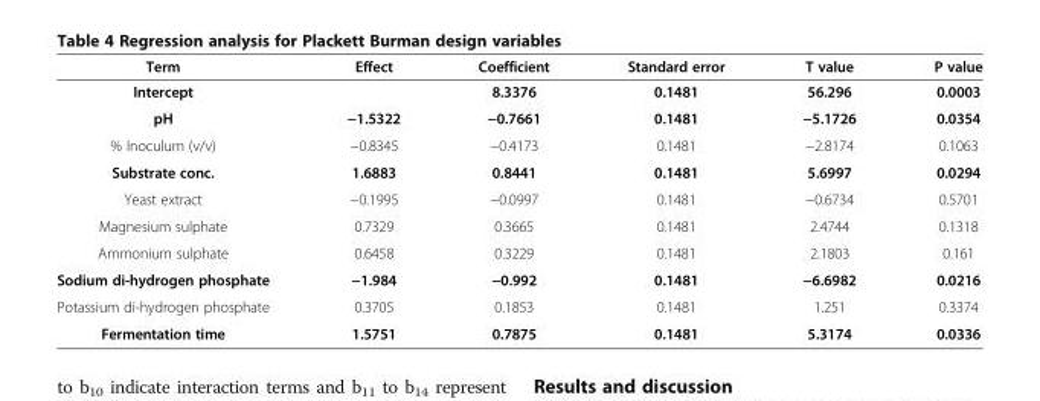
<table><thead><tr><td>Term</td><td>Effect</td><td>Coefficient</td><td>Standard error</td><td>T value</td><td>P value</td></tr></thead><tbody><tr><td>Intercept</td><td></td><td>8.3376</td><td>0.1481</td><td>56.296</td><td>0.0003</td></tr><tr><td>pH</td><td>−1.5322</td><td>−0.7661</td><td>0.1481</td><td>−5.1726</td><td>0.0354</td></tr><tr><td>% Inoculum (v/v)</td><td>−0.8345</td><td>−0.4173</td><td>0.1481</td><td>−2.8174</td><td>0.1063</td></tr><tr><td>Substrate conc.</td><td>1.6883</td><td>0.8441</td><td>0.1481</td><td>5.6997</td><td>0.0294</td></tr><tr><td>Yeast extract</td><td>−0.1995</td><td>−0.0997</td><td>0.1481</td><td>−0.6734</td><td>0.5701</td></tr><tr><td>Magnesium sulphate</td><td>0.7329</td><td>0.3665</td><td>0.1481</td><td>2.4744</td><td>0.1318</td></tr><tr><td>Ammonium sulphate</td><td>0.6458</td><td>0.3229</td><td>0.1481</td><td>2.1803</td><td>0.161</td></tr><tr><td>Sodium di-hydrogen phosphate</td><td>−1.984</td><td>−0.992</td><td>0.1481</td><td>−6.6982</td><td>0.0216</td></tr><tr><td>Potassium di-hydrogen phosphate</td><td>0.3705</td><td>0.1853</td><td>0.1481</td><td>1.251</td><td>0.3374</td></tr><tr><td>Fermentation time</td><td>1.5751</td><td>0.7875</td><td>0.1481</td><td>5.3174</td><td>0.0336</td></tr></tbody></table>